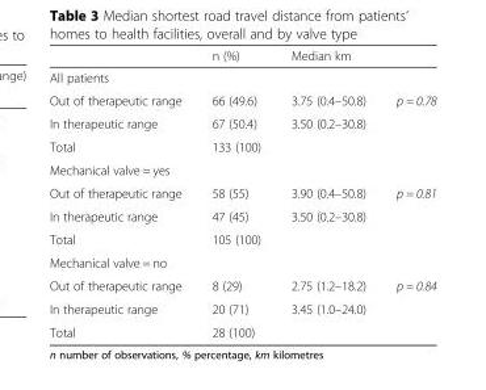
<table><thead><tr><td></td><td>n (%)</td><td>Median km</td><td></td></tr></thead><tbody><tr><td colspan="4">All patients</td></tr><tr><td>Out of therapeutic range</td><td>66 (49.6)</td><td>3.75 (0.4–50.8)</td><td>p = 0.78</td></tr><tr><td>In therapeutic range</td><td>67 (50.4)</td><td>3.50 (0.2–30.8)</td><td></td></tr><tr><td>Total</td><td>133 (100)</td><td></td><td></td></tr><tr><td colspan="4">Mechanical valve = yes</td></tr><tr><td>Out of therapeutic range</td><td>58 (55)</td><td>3.90 (0.4–50.8)</td><td>p = 0.81</td></tr><tr><td>In therapeutic range</td><td>47 (45)</td><td>3.50 (0.2–30.8)</td><td></td></tr><tr><td>Total</td><td>105 (100)</td><td></td><td></td></tr><tr><td colspan="4">Mechanical valve = no</td></tr><tr><td>Out of therapeutic range</td><td>8 (29)</td><td>2.75 (1.2–18.2)</td><td>p = 0.84</td></tr><tr><td>In therapeutic range</td><td>20 (71)</td><td>3.45 (1.0–24.0)</td><td></td></tr><tr><td>Total</td><td>28 (100)</td><td></td><td></td></tr></tbody></table>